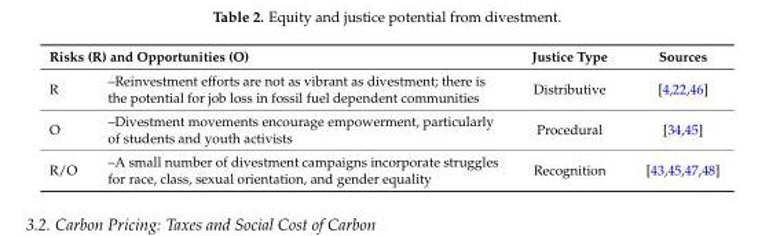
<table><thead><tr><td colspan="2">Risks (R) and Opportunities (O)</td><td rowspan="2">Justice Type Distributive</td><td rowspan="2">Sources [4,22,46]</td></tr><tr><td>R</td><td>–Reinvestment efforts are not as vibrant as divestment; there is the potential for job loss in fossil fuel dependent communities</td></tr></thead><tbody><tr><td>O</td><td>–Divestment movements encourage empowerment, particularly of students and youth activists</td><td>Procedural</td><td>[34,45]</td></tr><tr><td>R/O</td><td>–A small number of divestment campaigns incorporate struggles for race, class, sexual orientation, and gender equality</td><td>Recognition</td><td>[43,45,47,48]</td></tr></tbody></table>